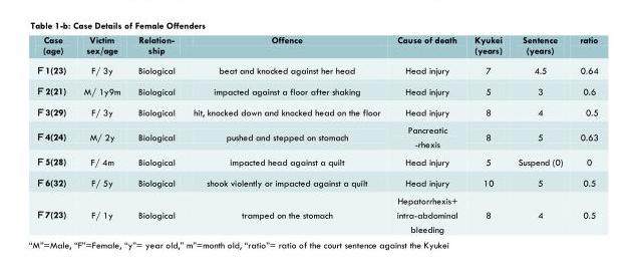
<table><thead><tr><td>Case (age)</td><td>Victim sex/age</td><td>Relation- ship</td><td>Offence</td><td>Cause of death</td><td>Kyukei (years)</td><td>Sentence (years)</td><td>ratio</td></tr></thead><tbody><tr><td>Ｆ1(23)</td><td>F/ 3y</td><td>Biological</td><td>beat and knocked against her head</td><td>Head injury</td><td>7</td><td>4.5</td><td>0.64</td></tr><tr><td>Ｆ2(21)</td><td>M/ 1y9m</td><td>Biological</td><td>impacted against a floor after shaking</td><td>Head injury</td><td>5</td><td>3</td><td>0.6</td></tr><tr><td>Ｆ3(29)</td><td>F/ 3y</td><td>Biological</td><td>hit, knocked down and knocked head on the floor</td><td>Head injury</td><td>8</td><td>4</td><td>0.5</td></tr><tr><td>Ｆ4(24)</td><td>M/ 2y</td><td>Biological</td><td>pushed and stepped on stomach</td><td>Pancreatic -rhexis</td><td>8</td><td>5</td><td>0.63</td></tr><tr><td>Ｆ5(28)</td><td>F/ 4m</td><td>Biological</td><td>impacted head against a quilt</td><td>Head injury</td><td>5</td><td>Suspend (0)</td><td>0</td></tr><tr><td>Ｆ6(32)</td><td>F/ 5y</td><td>Biological</td><td>shook violently or impacted against a quilt</td><td>Head injury</td><td>10</td><td>5</td><td>0.5</td></tr><tr><td>Ｆ7(23)</td><td>F/ 1y</td><td>Biological</td><td>tramped on the stomach</td><td>Hepatorrhexis+ intra-abdominal bleeding</td><td>8</td><td>4</td><td>0.5</td></tr></tbody></table>